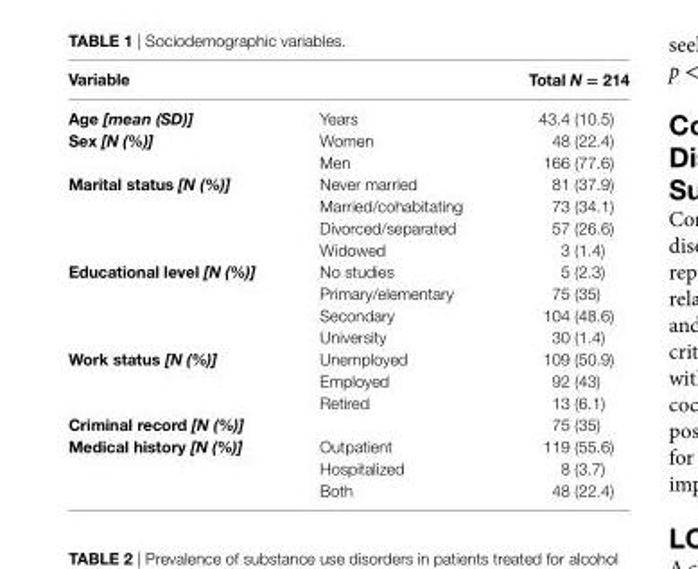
<table><thead><tr><td colspan="2">Variable</td><td rowspan="2">Total N = 214 43.4 (10.5)</td></tr><tr><td>age [mean (SD)]</td><td>Years</td></tr></thead><tbody><tr><td rowspan="2">sex [N (%)]</td><td>Women</td><td>48 (22.4)</td></tr><tr><td>Men</td><td>166 (77.6)</td></tr><tr><td rowspan="4">Marital status [N (%)]</td><td>Never married</td><td>81 (37.9)</td></tr><tr><td>Married/cohabitating</td><td>73 (34.1)</td></tr><tr><td>Divorced/separated</td><td>57 (26.6)</td></tr><tr><td>Widowed</td><td>3 (1.4)</td></tr><tr><td rowspan="4">educational level [N (%)]</td><td>No studies</td><td>5 (2.3)</td></tr><tr><td>Primary/elementary</td><td>75 (35)</td></tr><tr><td>Secondary</td><td>104 (48.6)</td></tr><tr><td>University</td><td>30 (1.4)</td></tr><tr><td rowspan="3">Work status [N (%)]</td><td>Unemployed</td><td>109 (50.9)</td></tr><tr><td>Employed</td><td>92 (43)</td></tr><tr><td>Retired</td><td>13 (6.1)</td></tr><tr><td>criminal record [N (%)]</td><td></td><td>75 (35)</td></tr><tr><td rowspan="3">Medical history [N (%)]</td><td>Outpatient</td><td>119 (55.6)</td></tr><tr><td>Hospitalized</td><td>8 (3.7)</td></tr><tr><td>Both</td><td>48 (22.4)</td></tr></tbody></table>